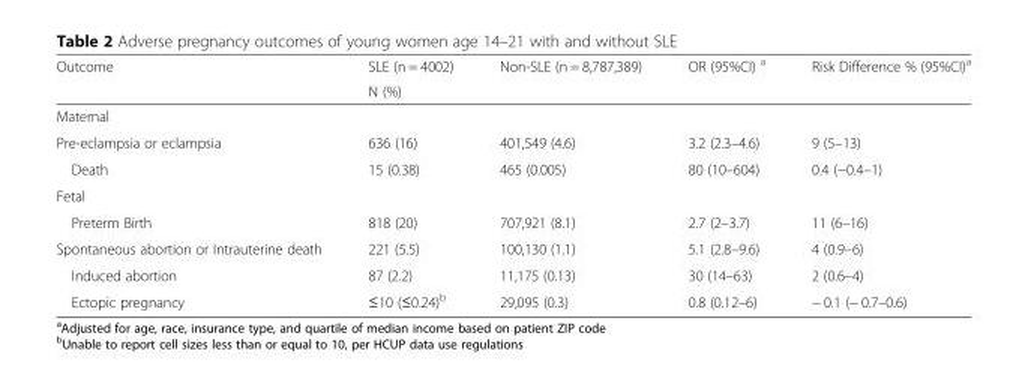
<table><thead><tr><td rowspan="2">Outcome</td><td>SLE (n = 4002)</td><td>Non-SLE (n = 8,787,389)</td><td rowspan="2">OR (95%CI) <sup>a</sup></td><td rowspan="2">Risk Difference % (95%CI)<sup>a</sup></td></tr><tr><td colspan="2">N (%)</td></tr></thead><tbody><tr><td colspan="5">Maternal</td></tr><tr><td>Pre-eclampsia or eclampsia</td><td>636 (16)</td><td>401,549 (4.6)</td><td>3.2 (2.3–4.6)</td><td>9 (5–13)</td></tr><tr><td>Death</td><td>15 (0.38)</td><td>465 (0.005)</td><td>80 (10–604)</td><td>0.4 (−0.4–1)</td></tr><tr><td colspan="5">Fetal</td></tr><tr><td>Preterm Birth</td><td>818 (20)</td><td>707,921 (8.1)</td><td>2.7 (2–3.7)</td><td>11 (6–16)</td></tr><tr><td>Spontaneous abortion or Intrauterine death</td><td>221 (5.5)</td><td>100,130 (1.1)</td><td>5.1 (2.8–9.6)</td><td>4 (0.9–6)</td></tr><tr><td>Induced abortion</td><td>87 (2.2)</td><td>11,175 (0.13)</td><td>30 (14–63)</td><td>2 (0.6–4)</td></tr><tr><td>Ectopic pregnancy</td><td>≤10 (≤0.24)<sup>b</sup></td><td>29,095 (0.3)</td><td>0.8 (0.12–6)</td><td>− 0.1 (− 0.7–0.6)</td></tr></tbody></table>